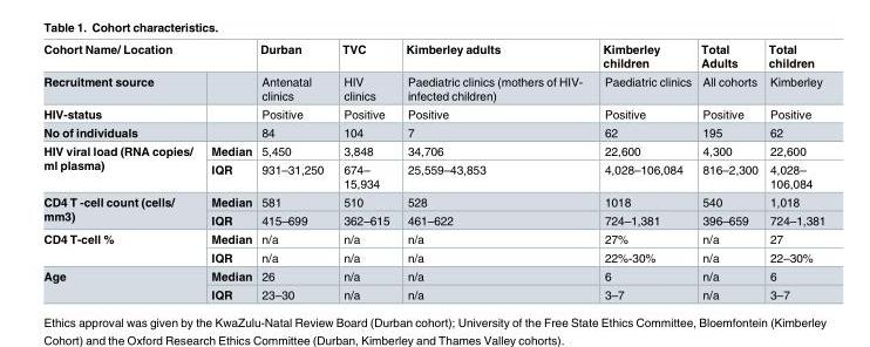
<table><thead><tr><td colspan="2">Cohort Name/ Location</td><td rowspan="2">Durban Antenatal clinics</td><td rowspan="2">TVC HIV clinics</td><td rowspan="2">Kimberley adults Paediatric clinics (mothers of HIV- infected children)</td><td rowspan="2">Kimberley children Paediatric clinics</td><td rowspan="2">Total Adults All cohorts</td><td rowspan="2">Total children Kimberley</td></tr><tr><td>Recruitment source</td><td></td></tr></thead><tbody><tr><td>HIV-status</td><td></td><td>Positive</td><td>Positive</td><td>Positive</td><td>Positive</td><td>Positive</td><td>Positive</td></tr><tr><td>No of individuals</td><td></td><td>84</td><td>104</td><td>7</td><td>62</td><td>195</td><td>62</td></tr><tr><td rowspan="2">HIV viral load (RNA copies/ ml plasma)</td><td>Median</td><td>5,450</td><td>3,848</td><td>34,706</td><td>22,600</td><td>4,300</td><td>22,600</td></tr><tr><td>IQR</td><td>931–31,250</td><td>674– 15,934</td><td>25,559–43,853</td><td>4,028–106,084</td><td>816–2,300</td><td>4,028– 106,084</td></tr><tr><td rowspan="2">CD4 T -cell count (cells/ mm3)</td><td>Median</td><td>581</td><td>510</td><td>528</td><td>1018</td><td>540</td><td>1,018</td></tr><tr><td>IQR</td><td>415–699</td><td>362–615</td><td>461–622</td><td>724–1,381</td><td>396–659</td><td>724–1,381</td></tr><tr><td rowspan="2">CD4 T-cell %</td><td>Median</td><td>n/a</td><td>n/a</td><td>n/a</td><td>27%</td><td>n/a</td><td>27</td></tr><tr><td>IQR</td><td>n/a</td><td>n/a</td><td>n/a</td><td>22%-30%</td><td>n/a</td><td>22–30%</td></tr><tr><td rowspan="2">Age</td><td>Median</td><td>26</td><td>n/a</td><td>n/a</td><td>6</td><td>n/a</td><td>6</td></tr><tr><td>IQR</td><td>23–30</td><td>n/a</td><td>n/a</td><td>3–7</td><td>n/a</td><td>3–7</td></tr></tbody></table>